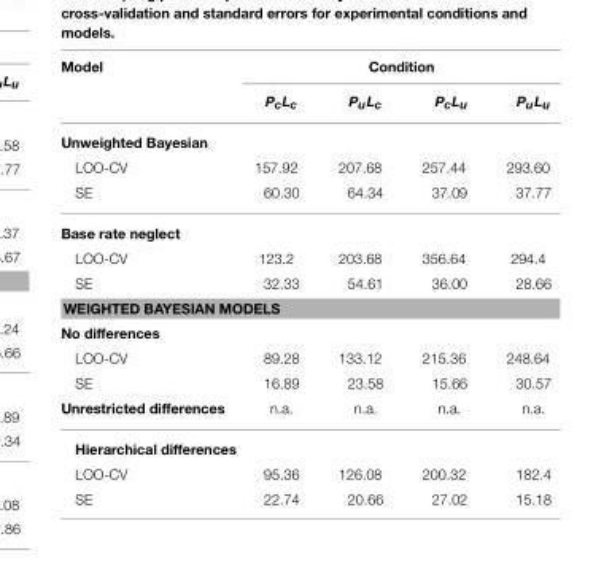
<table><thead><tr><td rowspan="2">Model</td><td colspan="4">Condition</td></tr><tr><td>P<sub>c</sub>L<sub>c</sub></td><td>P<sub>u</sub>L<sub>c</sub></td><td>P<sub>c</sub>L<sub>u</sub></td><td>P<sub>u</sub>L<sub>u</sub></td></tr></thead><tbody><tr><td colspan="5">Unweighted Bayesian</td></tr><tr><td>LOO-CV</td><td>157.92</td><td>207.68</td><td>257.44</td><td>293.60</td></tr><tr><td>SE</td><td>60.30</td><td>64.34</td><td>37.09</td><td>37.77</td></tr><tr><td colspan="5">Base rate neglect</td></tr><tr><td>LOO-CV</td><td>123.2</td><td>203.68</td><td>356.64</td><td>294.4</td></tr><tr><td>SE</td><td>32.33</td><td>54.61</td><td>36.00</td><td>28.66</td></tr><tr><td colspan="5">WEIGHTED BAYESIAN MODELS</td></tr><tr><td colspan="5">No differences</td></tr><tr><td>LOO-CV</td><td>89.28</td><td>133.12</td><td>215.36</td><td>248.64</td></tr><tr><td>SE</td><td>16.89</td><td>23.58</td><td>15.66</td><td>30.57</td></tr><tr><td>Unrestricted differences</td><td>n.a.</td><td>n.a.</td><td>n.a.</td><td>n.a.</td></tr><tr><td colspan="5">Hierarchical differences</td></tr><tr><td>LOO-CV</td><td>95.36</td><td>126.08</td><td>200.32</td><td>182.4</td></tr><tr><td>SE</td><td>22.74</td><td>20.66</td><td>27.02</td><td>15.18</td></tr></tbody></table>